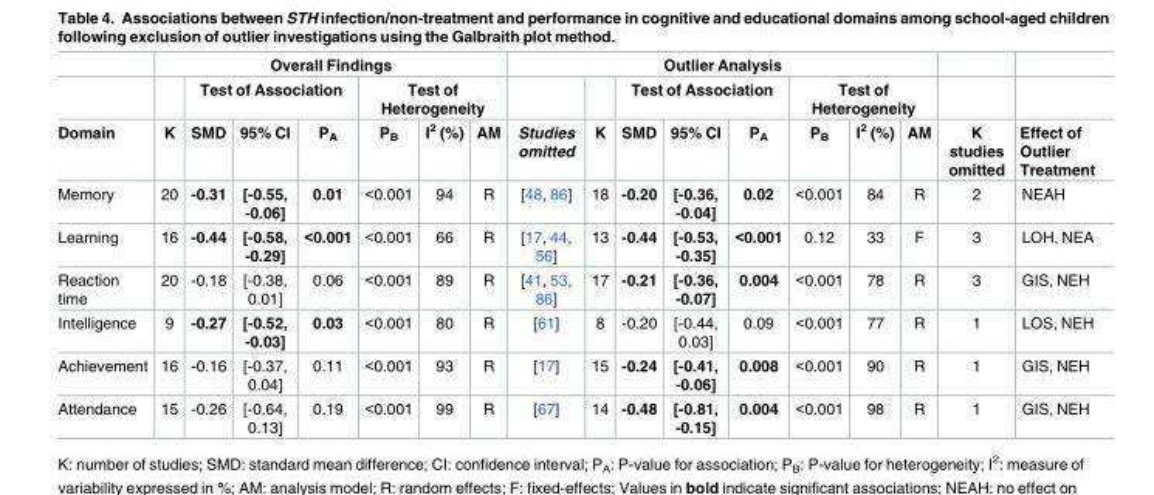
<table><thead><tr><td rowspan="3">Domain</td><td colspan="7">Overall Findings</td><td colspan="8">Outlier Analysis</td><td rowspan="3">K studies omitted</td><td rowspan="3">Effect of Outlier Treatment</td></tr><tr><td rowspan="2">K</td><td colspan="3">Test of Association</td><td colspan="3">Test of Heterogeneity</td><td rowspan="2">Studies omitted</td><td rowspan="2">K</td><td colspan="3">Test of Association</td><td colspan="3">Test of Heterogeneity</td></tr><tr><td>SMD</td><td>95% CI</td><td>P<sub>A</sub></td><td>P<sub>B</sub></td><td>I<sup>2</sup> (%)</td><td>AM</td><td>SMD</td><td>95% CI</td><td>P<sub>A</sub></td><td>P<sub>B</sub></td><td>I<sup>2</sup> (%)</td><td>AM</td></tr></thead><tbody><tr><td>Memory</td><td>20</td><td>-0.31</td><td>[-0.55, -0.06]</td><td>0.01</td><td>&lt;0.001</td><td>94</td><td>R</td><td>[48, 86]</td><td>18</td><td>-0.20</td><td>[-0.36, -0.04]</td><td>0.02</td><td>&lt;0.001</td><td>84</td><td>R</td><td>2</td><td>NEAH</td></tr><tr><td>Learning</td><td>16</td><td>-0.44</td><td>[-0.58, -0.29]</td><td>&lt;0.001</td><td>&lt;0.001</td><td>66</td><td>R</td><td>[17, 44, 56]</td><td>13</td><td>-0.44</td><td>[-0.53, -0.35]</td><td>&lt;0.001</td><td>0.12</td><td>33</td><td>F</td><td>3</td><td>LOH, NEA</td></tr><tr><td>Reaction time</td><td>20</td><td>-0.18</td><td>[-0.38, 0.01]</td><td>0.06</td><td>&lt;0.001</td><td>89</td><td>R</td><td>[41, 53, 86]</td><td>17</td><td>-0.21</td><td>[-0.36, -0.07]</td><td>0.004</td><td>&lt;0.001</td><td>78</td><td>R</td><td>3</td><td>GIS, NEH</td></tr><tr><td>Intelligence</td><td>9</td><td>-0.27</td><td>[-0.52, -0.03]</td><td>0.03</td><td>&lt;0.001</td><td>80</td><td>R</td><td>[61]</td><td>8</td><td>-0.20</td><td>[-0.44, 0.03]</td><td>0.09</td><td>&lt;0.001</td><td>77</td><td>R</td><td>1</td><td>LOS, NEH</td></tr><tr><td>Achievement</td><td>16</td><td>-0.16</td><td>[-0.37, 0.04]</td><td>0.11</td><td>&lt;0.001</td><td>93</td><td>R</td><td>[17]</td><td>15</td><td>-0.24</td><td>[-0.41, -0.06]</td><td>0.008</td><td>&lt;0.001</td><td>90</td><td>R</td><td>1</td><td>GIS, NEH</td></tr><tr><td>Attendance</td><td>15</td><td>-0.26</td><td>[-0.64, 0.13]</td><td>0.19</td><td>&lt;0.001</td><td>99</td><td>R</td><td>[67]</td><td>14</td><td>-0.48</td><td>[-0.81, -0.15]</td><td>0.004</td><td>&lt;0.001</td><td>98</td><td>R</td><td>1</td><td>GIS, NEH</td></tr></tbody></table>